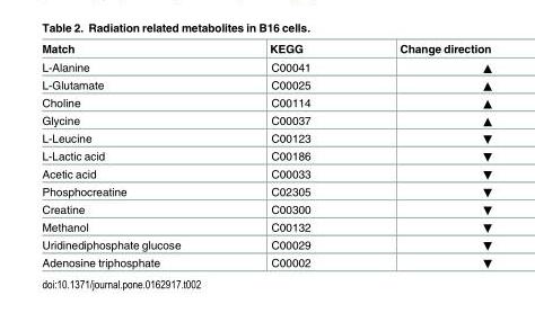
<table><thead><tr><td>Match</td><td>KEGG</td><td>Change direction</td></tr></thead><tbody><tr><td>L-Alanine</td><td>C00041</td><td>▲</td></tr><tr><td>L-Glutamate</td><td>C00025</td><td>▲</td></tr><tr><td>Choline</td><td>C00114</td><td>▲</td></tr><tr><td>Glycine</td><td>C00037</td><td>▲</td></tr><tr><td>L-Leucine</td><td>C00123</td><td>▼</td></tr><tr><td>L-Lactic acid</td><td>C00186</td><td>▼</td></tr><tr><td>Acetic acid</td><td>C00033</td><td>▼</td></tr><tr><td>Phosphocreatine</td><td>C02305</td><td>▼</td></tr><tr><td>Creatine</td><td>C00300</td><td>▼</td></tr><tr><td>Methanol</td><td>C00132</td><td>▼</td></tr><tr><td>Uridinediphosphate glucose</td><td>C00029</td><td>▼</td></tr><tr><td>Adenosine triphosphate</td><td>C00002</td><td>▼</td></tr></tbody></table>